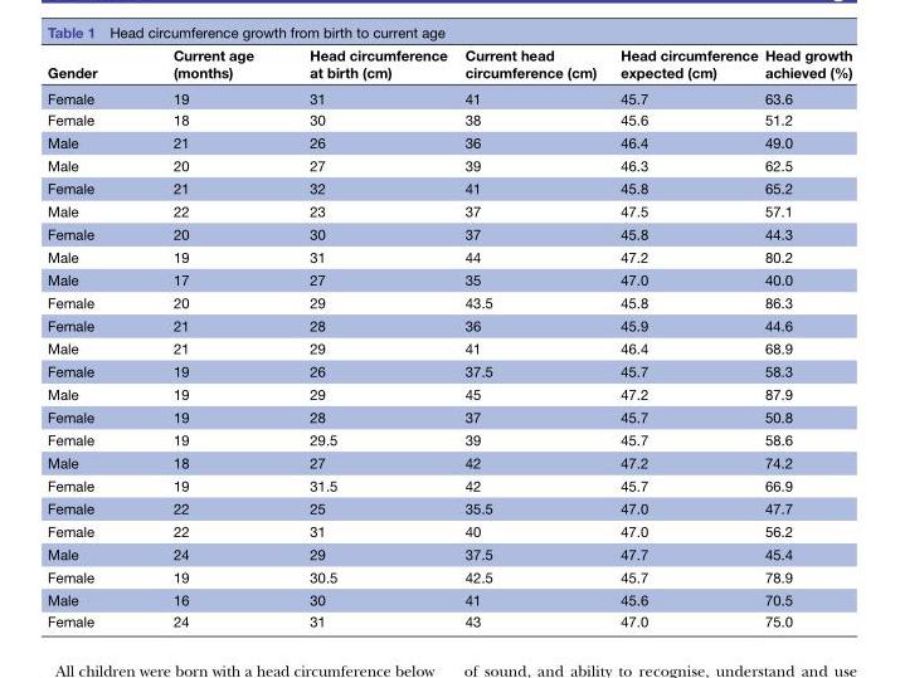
<table><thead><tr><td>Gender</td><td>Current age (months)</td><td>Head circumference at birth (cm)</td><td>Current head circumference (cm)</td><td>Head circumference expected (cm)</td><td>Head growth achieved (%)</td></tr></thead><tbody><tr><td>Female</td><td>19</td><td>31</td><td>41</td><td>45.7</td><td>63.6</td></tr><tr><td>Female</td><td>18</td><td>30</td><td>38</td><td>45.6</td><td>51.2</td></tr><tr><td>Male</td><td>21</td><td>26</td><td>36</td><td>46.4</td><td>49.0</td></tr><tr><td>Male</td><td>20</td><td>27</td><td>39</td><td>46.3</td><td>62.5</td></tr><tr><td>Female</td><td>21</td><td>32</td><td>41</td><td>45.8</td><td>65.2</td></tr><tr><td>Male</td><td>22</td><td>23</td><td>37</td><td>47.5</td><td>57.1</td></tr><tr><td>Female</td><td>20</td><td>30</td><td>37</td><td>45.8</td><td>44.3</td></tr><tr><td>Male</td><td>19</td><td>31</td><td>44</td><td>47.2</td><td>80.2</td></tr><tr><td>Male</td><td>17</td><td>27</td><td>35</td><td>47.0</td><td>40.0</td></tr><tr><td>Female</td><td>20</td><td>29</td><td>43.5</td><td>45.8</td><td>86.3</td></tr><tr><td>Female</td><td>21</td><td>28</td><td>36</td><td>45.9</td><td>44.6</td></tr><tr><td>Male</td><td>21</td><td>29</td><td>41</td><td>46.4</td><td>68.9</td></tr><tr><td>Female</td><td>19</td><td>26</td><td>37.5</td><td>45.7</td><td>58.3</td></tr><tr><td>Male</td><td>19</td><td>29</td><td>45</td><td>47.2</td><td>87.9</td></tr><tr><td>Female</td><td>19</td><td>28</td><td>37</td><td>45.7</td><td>50.8</td></tr><tr><td>Female</td><td>19</td><td>29.5</td><td>39</td><td>45.7</td><td>58.6</td></tr><tr><td>Male</td><td>18</td><td>27</td><td>42</td><td>47.2</td><td>74.2</td></tr><tr><td>Female</td><td>19</td><td>31.5</td><td>42</td><td>45.7</td><td>66.9</td></tr><tr><td>Female</td><td>22</td><td>25</td><td>35.5</td><td>47.0</td><td>47.7</td></tr><tr><td>Female</td><td>22</td><td>31</td><td>40</td><td>47.0</td><td>56.2</td></tr><tr><td>Male</td><td>24</td><td>29</td><td>37.5</td><td>47.7</td><td>45.4</td></tr><tr><td>Female</td><td>19</td><td>30.5</td><td>42.5</td><td>45.7</td><td>78.9</td></tr><tr><td>Male</td><td>16</td><td>30</td><td>41</td><td>45.6</td><td>70.5</td></tr><tr><td>Female</td><td>24</td><td>31</td><td>43</td><td>47.0</td><td>75.0</td></tr></tbody></table>